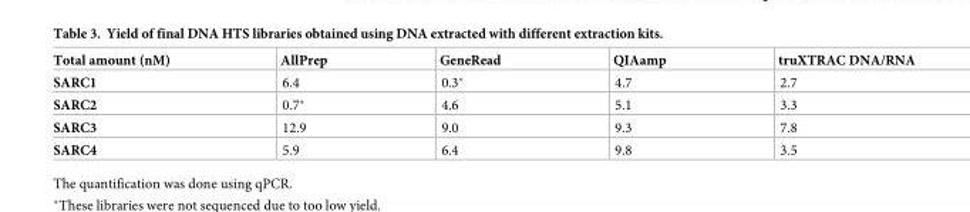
<table><thead><tr><td>Total amount (nM)</td><td>AllPrep</td><td>GeneRead</td><td>QIAamp</td><td>truXTRAC DNA/RNA</td></tr></thead><tbody><tr><td>SARC1</td><td>6.4</td><td>0.3*</td><td>4.7</td><td>2.7</td></tr><tr><td>SARC2</td><td>0.7*</td><td>4.6</td><td>5.1</td><td>3.3</td></tr><tr><td>SARC3</td><td>12.9</td><td>9.0</td><td>9.3</td><td>7.8</td></tr><tr><td>SARC4</td><td>5.9</td><td>6.4</td><td>9.8</td><td>3.5</td></tr></tbody></table>